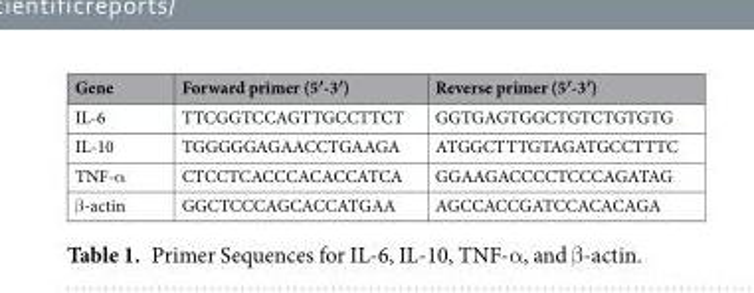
<table><thead><tr><td>Gene</td><td>Forward primer (5′-3′)</td><td>Reverse primer (5′-3′)</td></tr></thead><tbody><tr><td>IL-6</td><td>TTCGGTCCAGTTGCCTTCT</td><td>GGTGAGTGGCTGTCTGTGTG</td></tr><tr><td>IL-10</td><td>TGGGGGAGAACCTGAAGA</td><td>ATGGCTTTGTAGATGCCTTTC</td></tr><tr><td>TNF-α</td><td>CTCCTCACCCACACCATCA</td><td>GGAAGACCCCTCCCAGATAG</td></tr><tr><td>β-actin</td><td>GGCTCCCAGCACCATGAA</td><td>AGCCACCGATCCACACAGA</td></tr></tbody></table>